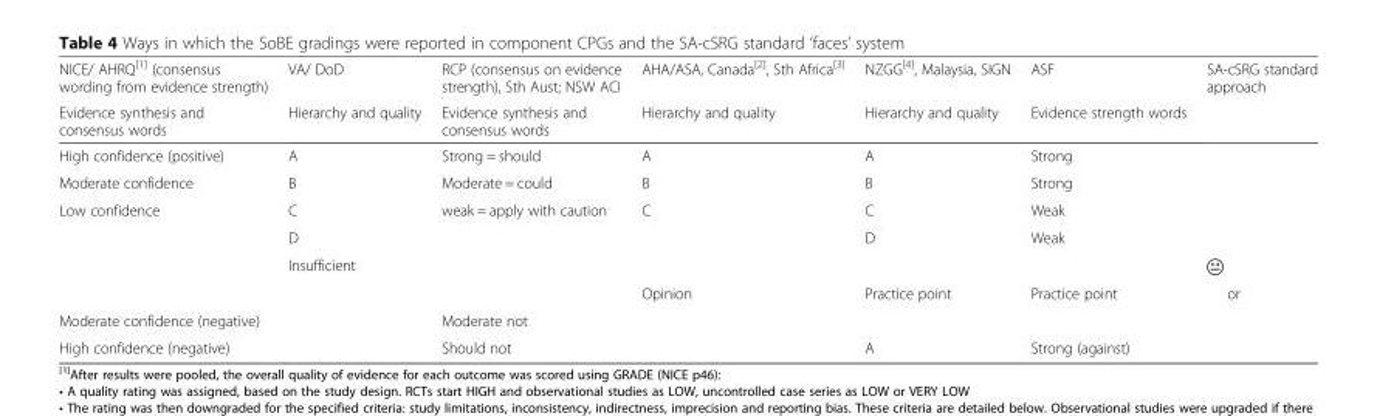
<table><thead><tr><td rowspan="2">NICE/ AHRQ<sup>[1]</sup> (consensus wording from evidence strength) Evidence synthesis and consensus words</td><td rowspan="2">VA/ DoD Hierarchy and quality</td><td rowspan="2">RCP (consensus on evidence strength), Sth Aust; NSW ACI Evidence synthesis and consensus words</td><td rowspan="2">AHA/ASA, Canada<sup>[2]</sup>, Sth Africa<sup>[3]</sup> Hierarchy and quality</td><td rowspan="2">NZGG<sup>[4]</sup>, Malaysia, SIGN Hierarchy and quality</td><td rowspan="2">ASF Evidence strength words</td><td rowspan="2">SA-cSRG standard approach</td></tr><tr></tr></thead><tbody><tr><td>High confidence (positive)</td><td>A</td><td>Strong = should</td><td>A</td><td>A</td><td>Strong</td><td></td></tr><tr><td>Moderate confidence</td><td>B</td><td>Moderate = could</td><td>B</td><td>B</td><td>Strong</td><td></td></tr><tr><td rowspan="4">Low confidence</td><td>C</td><td rowspan="3">weak = apply with caution</td><td rowspan="2">C</td><td>C</td><td>Weak</td><td></td></tr><tr><td>D</td><td>D</td><td>Weak</td><td></td></tr><tr><td>Insufficient</td><td></td><td></td><td></td><td></td></tr><tr><td></td><td></td><td>Opinion</td><td>Practice point</td><td>Practice point</td><td>or</td></tr><tr><td>Moderate confidence (negative)</td><td></td><td>Moderate not</td><td></td><td></td><td></td><td></td></tr><tr><td>High confidence (negative)</td><td></td><td>Should not</td><td></td><td>A</td><td>Strong (against)</td><td></td></tr></tbody></table>